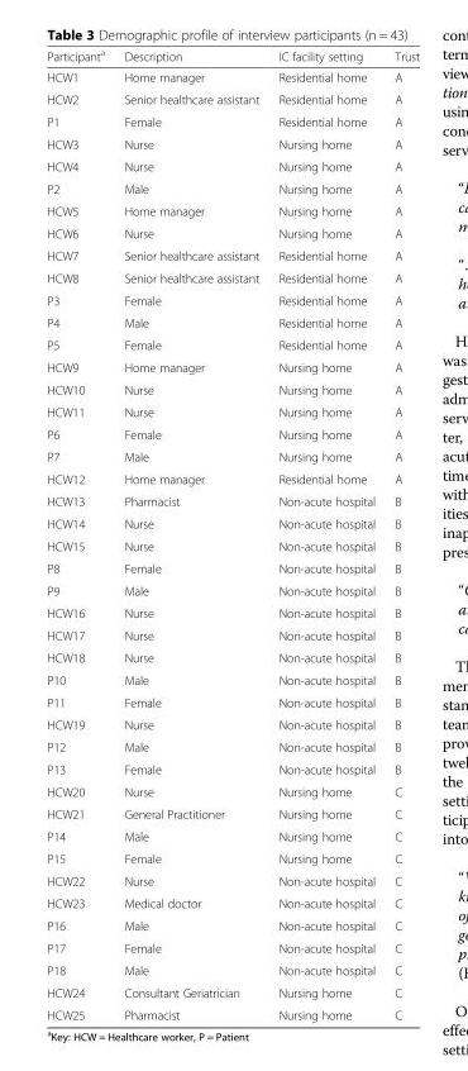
<table><thead><tr><td>Participant<sup>a</sup></td><td>Description</td><td>IC facility setting</td><td>Trust</td></tr></thead><tbody><tr><td>HCW1</td><td>Home manager</td><td>Residential home</td><td>A</td></tr><tr><td>HCW2</td><td>Senior healthcare assistant</td><td>Residential home</td><td>A</td></tr><tr><td>P1</td><td>Female</td><td>Residential home</td><td>A</td></tr><tr><td>HCW3</td><td>Nurse</td><td>Nursing home</td><td>A</td></tr><tr><td>HCW4</td><td>Nurse</td><td>Nursing home</td><td>A</td></tr><tr><td>P2</td><td>Male</td><td>Nursing home</td><td>A</td></tr><tr><td>HCW5</td><td>Home manager</td><td>Nursing home</td><td>A</td></tr><tr><td>HCW6</td><td>Nurse</td><td>Nursing home</td><td>A</td></tr><tr><td>HCW7</td><td>Senior healthcare assistant</td><td>Residential home</td><td>A</td></tr><tr><td>HCW8</td><td>Senior healthcare assistant</td><td>Residential home</td><td>A</td></tr><tr><td>P3</td><td>Female</td><td>Residential home</td><td>A</td></tr><tr><td>P4</td><td>Male</td><td>Residential home</td><td>A</td></tr><tr><td>P5</td><td>Female</td><td>Residential home</td><td>A</td></tr><tr><td>HCW9</td><td>Home manager</td><td>Nursing home</td><td>A</td></tr><tr><td>HCW10</td><td>Nurse</td><td>Nursing home</td><td>A</td></tr><tr><td>HCW11</td><td>Nurse</td><td>Nursing home</td><td>A</td></tr><tr><td>P6</td><td>Female</td><td>Nursing home</td><td>A</td></tr><tr><td>P7</td><td>Male</td><td>Nursing home</td><td>A</td></tr><tr><td>HCW12</td><td>Home manager</td><td>Residential home</td><td>A</td></tr><tr><td>HCW13</td><td>Pharmacist</td><td>Non-acute hospital</td><td>B</td></tr><tr><td>HCW14</td><td>Nurse</td><td>Non-acute hospital</td><td>B</td></tr><tr><td>HCW15</td><td>Nurse</td><td>Non-acute hospital</td><td>B</td></tr><tr><td>P8</td><td>Female</td><td>Non-acute hospital</td><td>B</td></tr><tr><td>P9</td><td>Male</td><td>Non-acute hospital</td><td>B</td></tr><tr><td>HCW16</td><td>Nurse</td><td>Non-acute hospital</td><td>B</td></tr><tr><td>HCW17</td><td>Nurse</td><td>Non-acute hospital</td><td>B</td></tr><tr><td>HCW18</td><td>Nurse</td><td>Non-acute hospital</td><td>B</td></tr><tr><td>P10</td><td>Male</td><td>Non-acute hospital</td><td>B</td></tr><tr><td>P11</td><td>Female</td><td>Non-acute hospital</td><td>B</td></tr><tr><td>HCW19</td><td>Nurse</td><td>Non-acute hospital</td><td>B</td></tr><tr><td>P12</td><td>Male</td><td>Non-acute hospital</td><td>B</td></tr><tr><td>P13</td><td>Female</td><td>Non-acute hospital</td><td>B</td></tr><tr><td>HCW20</td><td>Nurse</td><td>Nursing home</td><td>C</td></tr><tr><td>HCW21</td><td>General Practitioner</td><td>Nursing home</td><td>C</td></tr><tr><td>P14</td><td>Male</td><td>Nursing home</td><td>C</td></tr><tr><td>P15</td><td>Female</td><td>Nursing home</td><td>C</td></tr><tr><td>HCW22</td><td>Nurse</td><td>Non-acute hospital</td><td>C</td></tr><tr><td>HCW23</td><td>Medical doctor</td><td>Non-acute hospital</td><td>C</td></tr><tr><td>P16</td><td>Male</td><td>Non-acute hospital</td><td>C</td></tr><tr><td>P17</td><td>Female</td><td>Non-acute hospital</td><td>C</td></tr><tr><td>P18</td><td>Male</td><td>Non-acute hospital</td><td>C</td></tr><tr><td>HCW24</td><td>Consultant Geriatrician</td><td>Nursing home</td><td>C</td></tr><tr><td>HCW25</td><td>Pharmacist</td><td>Nursing home</td><td>C</td></tr></tbody></table>